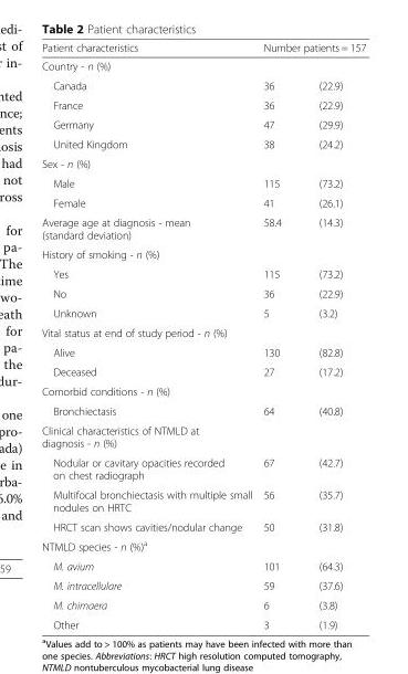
<table><thead><tr><td>Patient characteristics</td><td colspan="2">Number patients = 157</td></tr><tr><td colspan="3">Country - n (%)</td></tr><tr><td>Canada</td><td>36</td><td>(22.9)</td></tr></thead><tbody><tr><td>France</td><td>36</td><td>(22.9)</td></tr><tr><td>Germany</td><td>47</td><td>(29.9)</td></tr><tr><td>United Kingdom</td><td>38</td><td>(24.2)</td></tr><tr><td colspan="3">Sex - n (%)</td></tr><tr><td>Male</td><td>115</td><td>(73.2)</td></tr><tr><td>Female</td><td>41</td><td>(26.1)</td></tr><tr><td>Average age at diagnosis - mean (standard deviation)</td><td>58.4</td><td>(14.3)</td></tr><tr><td colspan="3">History of smoking - n (%)</td></tr><tr><td>Yes</td><td>115</td><td>(73.2)</td></tr><tr><td>No</td><td>36</td><td>(22.9)</td></tr><tr><td>Unknown</td><td>5</td><td>(3.2)</td></tr><tr><td colspan="3">Vital status at end of study period - n (%)</td></tr><tr><td>Alive</td><td>130</td><td>(82.8)</td></tr><tr><td>Deceased</td><td>27</td><td>(17.2)</td></tr><tr><td colspan="3">Comorbid conditions - n (%)</td></tr><tr><td>Bronchiectasis</td><td>64</td><td>(40.8)</td></tr><tr><td colspan="3">Clinical characteristics of NTMLD at diagnosis - n (%)</td></tr><tr><td>Nodular or cavitary opacities recorded on chest radiograph</td><td>67</td><td>(42.7)</td></tr><tr><td>Multifocal bronchiectasis with multiple small nodules on HRTC</td><td>56</td><td>(35.7)</td></tr><tr><td>HRCT scan shows cavities/nodular change</td><td>50</td><td>(31.8)</td></tr><tr><td colspan="3">NTMLD species - n (%)<sup>a</sup></td></tr><tr><td>M. avium</td><td>101</td><td>(64.3)</td></tr><tr><td>M. intracellulare</td><td>59</td><td>(37.6)</td></tr><tr><td>M. chimaera</td><td>6</td><td>(3.8)</td></tr><tr><td>Other</td><td>3</td><td>(1.9)</td></tr></tbody></table>